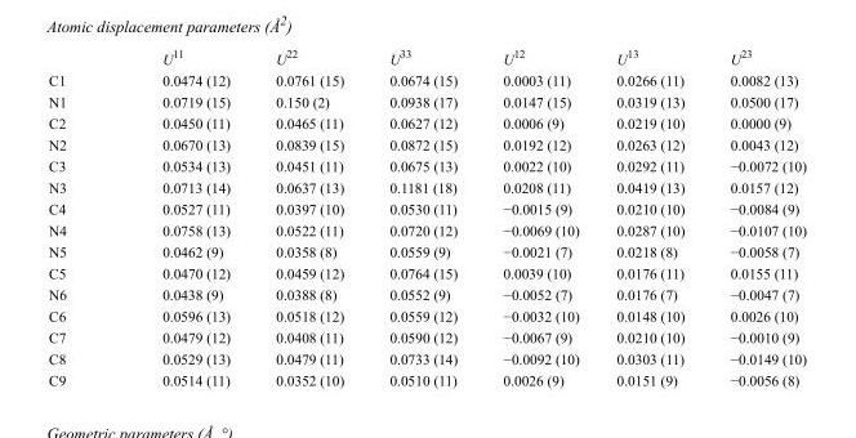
<table><thead><tr><td></td><td>U<sup>11</sup></td><td>U<sup>22</sup></td><td>U<sup>33</sup></td><td>U<sup>12</sup></td><td>U<sup>13</sup></td><td>U<sup>23</sup></td></tr></thead><tbody><tr><td>C1</td><td>0.0474 (12)</td><td>0.0761 (15)</td><td>0.0674 (15)</td><td>0.0003 (11)</td><td>0.0266 (11)</td><td>0.0082 (13)</td></tr><tr><td>N1</td><td>0.0719 (15)</td><td>0.150 (2)</td><td>0.0938 (17)</td><td>0.0147 (15)</td><td>0.0319 (13)</td><td>0.0500 (17)</td></tr><tr><td>C2</td><td>0.0450 (11)</td><td>0.0465 (11)</td><td>0.0627 (12)</td><td>0.0006 (9)</td><td>0.0219 (10)</td><td>0.0000 (9)</td></tr><tr><td>N2</td><td>0.0670 (13)</td><td>0.0839 (15)</td><td>0.0872 (15)</td><td>0.0192 (12)</td><td>0.0263 (12)</td><td>0.0043 (12)</td></tr><tr><td>C3</td><td>0.0534 (13)</td><td>0.0451 (11)</td><td>0.0675 (13)</td><td>0.0022 (10)</td><td>0.0292 (11)</td><td>−0.0072 (10)</td></tr><tr><td>N3</td><td>0.0713 (14)</td><td>0.0637 (13)</td><td>0.1181 (18)</td><td>0.0208 (11)</td><td>0.0419 (13)</td><td>0.0157 (12)</td></tr><tr><td>C4</td><td>0.0527 (11)</td><td>0.0397 (10)</td><td>0.0530 (11)</td><td>−0.0015 (9)</td><td>0.0210 (10)</td><td>−0.0084 (9)</td></tr><tr><td>N4</td><td>0.0758 (13)</td><td>0.0522 (11)</td><td>0.0720 (12)</td><td>−0.0069 (10)</td><td>0.0287 (10)</td><td>−0.0107 (10)</td></tr><tr><td>N5</td><td>0.0462 (9)</td><td>0.0358 (8)</td><td>0.0559 (9)</td><td>−0.0021 (7)</td><td>0.0218 (8)</td><td>−0.0058 (7)</td></tr><tr><td>C5</td><td>0.0470 (12)</td><td>0.0459 (12)</td><td>0.0764 (15)</td><td>0.0039 (10)</td><td>0.0176 (11)</td><td>0.0155 (11)</td></tr><tr><td>N6</td><td>0.0438 (9)</td><td>0.0388 (8)</td><td>0.0552 (9)</td><td>−0.0052 (7)</td><td>0.0176 (7)</td><td>−0.0047 (7)</td></tr><tr><td>C6</td><td>0.0596 (13)</td><td>0.0518 (12)</td><td>0.0559 (12)</td><td>−0.0032 (10)</td><td>0.0148 (10)</td><td>0.0026 (10)</td></tr><tr><td>C7</td><td>0.0479 (12)</td><td>0.0408 (11)</td><td>0.0590 (12)</td><td>−0.0067 (9)</td><td>0.0210 (10)</td><td>−0.0010 (9)</td></tr><tr><td>C8</td><td>0.0529 (13)</td><td>0.0479 (11)</td><td>0.0733 (14)</td><td>−0.0092 (10)</td><td>0.0303 (11)</td><td>−0.0149 (10)</td></tr><tr><td>C9</td><td>0.0514 (11)</td><td>0.0352 (10)</td><td>0.0510 (11)</td><td>0.0026 (9)</td><td>0.0151 (9)</td><td>−0.0056 (8)</td></tr></tbody></table>